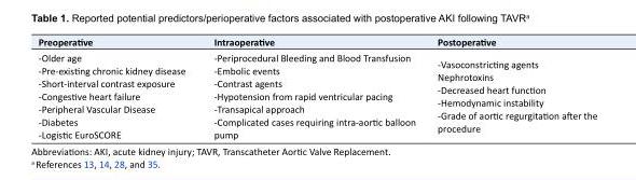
<table><tbody><tr><td>Preoperative</td><td>Intraoperative</td><td>Postoperative</td></tr><tr><td>-Older age -Pre-existing chronic kidney disease -Short-interval contrast exposure -Congestive heart failure -Peripheral Vascular Disease -Diabetes -Logistic EuroSCORE</td><td>-Periprocedural Bleeding and Blood Transfusion -Embolic events -Contrast agents -Hypotension from rapid ventricular pacing -Transapical approach -Complicated cases requiring intra-aortic balloon pump</td><td>-Vasoconstricting agents Nephrotoxins -Decreased heart function -Hemodynamic instability -Grade of aortic regurgitation after the procedure</td></tr></tbody></table>